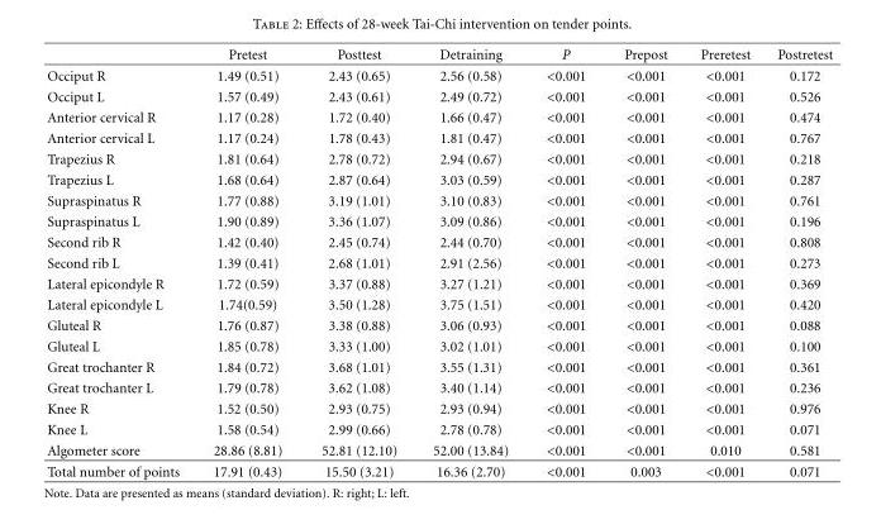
<table><thead><tr><td></td><td>Pretest</td><td>Posttest</td><td>Detraining</td><td>P</td><td>Prepost</td><td>Preretest</td><td>Postretest</td></tr></thead><tbody><tr><td>Occiput R</td><td>1.49 (0.51)</td><td>2.43 (0.65)</td><td>2.56 (0.58)</td><td>&lt;0.001</td><td>&lt;0.001</td><td>&lt;0.001</td><td>0.172</td></tr><tr><td>Occiput L</td><td>1.57 (0.49)</td><td>2.43 (0.61)</td><td>2.49 (0.72)</td><td>&lt;0.001</td><td>&lt;0.001</td><td>&lt;0.001</td><td>0.526</td></tr><tr><td>Anterior cervical R</td><td>1.17 (0.28)</td><td>1.72 (0.40)</td><td>1.66 (0.47)</td><td>&lt;0.001</td><td>&lt;0.001</td><td>&lt;0.001</td><td>0.474</td></tr><tr><td>Anterior cervical L</td><td>1.17 (0.24)</td><td>1.78 (0.43)</td><td>1.81 (0.47)</td><td>&lt;0.001</td><td>&lt;0.001</td><td>&lt;0.001</td><td>0.767</td></tr><tr><td>Trapezius R</td><td>1.81 (0.64)</td><td>2.78 (0.72)</td><td>2.94 (0.67)</td><td>&lt;0.001</td><td>&lt;0.001</td><td>&lt;0.001</td><td>0.218</td></tr><tr><td>Trapezius L</td><td>1.68 (0.64)</td><td>2.87 (0.64)</td><td>3.03 (0.59)</td><td>&lt;0.001</td><td>&lt;0.001</td><td>&lt;0.001</td><td>0.287</td></tr><tr><td>Supraspinatus R</td><td>1.77 (0.88)</td><td>3.19 (1.01)</td><td>3.10 (0.83)</td><td>&lt;0.001</td><td>&lt;0.001</td><td>&lt;0.001</td><td>0.761</td></tr><tr><td>Supraspinatus L</td><td>1.90 (0.89)</td><td>3.36 (1.07)</td><td>3.09 (0.86)</td><td>&lt;0.001</td><td>&lt;0.001</td><td>&lt;0.001</td><td>0.196</td></tr><tr><td>Second rib R</td><td>1.42 (0.40)</td><td>2.45 (0.74)</td><td>2.44 (0.70)</td><td>&lt;0.001</td><td>&lt;0.001</td><td>&lt;0.001</td><td>0.808</td></tr><tr><td>Second rib L</td><td>1.39 (0.41)</td><td>2.68 (1.01)</td><td>2.91 (2.56)</td><td>&lt;0.001</td><td>&lt;0.001</td><td>&lt;0.001</td><td>0.273</td></tr><tr><td>Lateral epicondyle R</td><td>1.72 (0.59)</td><td>3.37 (0.88)</td><td>3.27 (1.21)</td><td>&lt;0.001</td><td>&lt;0.001</td><td>&lt;0.001</td><td>0.369</td></tr><tr><td>Lateral epicondyle L</td><td>1.74(0.59)</td><td>3.50 (1.28)</td><td>3.75 (1.51)</td><td>&lt;0.001</td><td>&lt;0.001</td><td>&lt;0.001</td><td>0.420</td></tr><tr><td>Gluteal R</td><td>1.76 (0.87)</td><td>3.38 (0.88)</td><td>3.06 (0.93)</td><td>&lt;0.001</td><td>&lt;0.001</td><td>&lt;0.001</td><td>0.088</td></tr><tr><td>Gluteal L</td><td>1.85 (0.78)</td><td>3.33 (1.00)</td><td>3.02 (1.01)</td><td>&lt;0.001</td><td>&lt;0.001</td><td>&lt;0.001</td><td>0.100</td></tr><tr><td>Great trochanter R</td><td>1.84 (0.72)</td><td>3.68 (1.01)</td><td>3.55 (1.31)</td><td>&lt;0.001</td><td>&lt;0.001</td><td>&lt;0.001</td><td>0.361</td></tr><tr><td>Great trochanter L</td><td>1.79 (0.78)</td><td>3.62 (1.08)</td><td>3.40 (1.14)</td><td>&lt;0.001</td><td>&lt;0.001</td><td>&lt;0.001</td><td>0.236</td></tr><tr><td>Knee R</td><td>1.52 (0.50)</td><td>2.93 (0.75)</td><td>2.93 (0.94)</td><td>&lt;0.001</td><td>&lt;0.001</td><td>&lt;0.001</td><td>0.976</td></tr><tr><td>Knee L</td><td>1.58 (0.54)</td><td>2.99 (0.66)</td><td>2.78 (0.78)</td><td>&lt;0.001</td><td>&lt;0.001</td><td>&lt;0.001</td><td>0.071</td></tr><tr><td>Algometer score</td><td>28.86 (8.81)</td><td>52.81 (12.10)</td><td>52.00 (13.84)</td><td>&lt;0.001</td><td>&lt;0.001</td><td>0.010</td><td>0.581</td></tr><tr><td>Total number of points</td><td>17.91 (0.43)</td><td>15.50 (3.21)</td><td>16.36 (2.70)</td><td>&lt;0.001</td><td>0.003</td><td>&lt;0.001</td><td>0.071</td></tr></tbody></table>